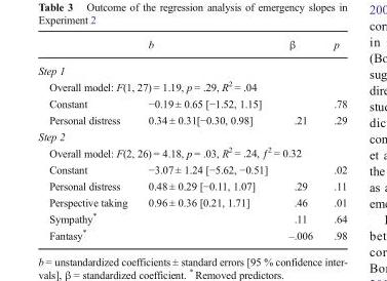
<table><thead><tr><td></td><td>b</td><td>β</td><td>p</td></tr></thead><tbody><tr><td colspan="4">Step 1</td></tr><tr><td colspan="4">Overall model: F(1, 27) = 1.19, p = .29, R<sup>2</sup> = .04</td></tr><tr><td>Constant</td><td>−0.19 ± 0.65 [−1.52, 1.15]</td><td></td><td>.78</td></tr><tr><td>Personal distress</td><td>0.34 ± 0.31[−0.30, 0.98]</td><td>.21</td><td>.29</td></tr><tr><td colspan="4">Step 2</td></tr><tr><td colspan="4">Overall model: F(2, 26) = 4.18, p = .03, R<sup>2</sup> = .24, ƒ<sup>2</sup> = 0.32</td></tr><tr><td>Constant</td><td>−3.07 ± 1.24 [−5.62, −0.51]</td><td></td><td>.02</td></tr><tr><td>Personal distress</td><td>0.48 ± 0.29 [−0.11, 1.07]</td><td>.29</td><td>.11</td></tr><tr><td>Perspective taking</td><td>0.96 ± 0.36 [0.21, 1.71]</td><td>.46</td><td>.01</td></tr><tr><td>Sympathy*</td><td></td><td>.11</td><td>.64</td></tr><tr><td>Fantasy*</td><td></td><td>–.006</td><td>.98</td></tr></tbody></table>